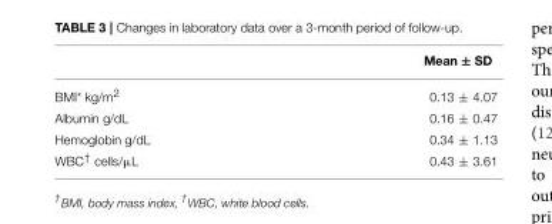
<table><thead><tr><td></td><td>Mean ± SD</td></tr></thead><tbody><tr><td>BMI* kg/m2</td><td>0.13 ± 4.07</td></tr><tr><td>Albumin g/dL</td><td>0.16 ± 0.47</td></tr><tr><td>Hemoglobin g/dL</td><td>0.34 ± 1.13</td></tr><tr><td>WBC<sup>†</sup> cells/µL</td><td>0.43 ± 3.61</td></tr></tbody></table>